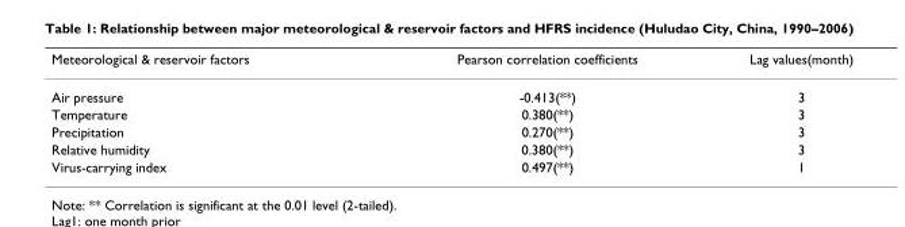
<table><thead><tr><td>Meteorological &amp; reservoir factors</td><td>Pearson correlation coefficients</td><td>Lag values(month)</td></tr></thead><tbody><tr><td>Air pressure</td><td>-0.413(**)</td><td>3</td></tr><tr><td>Temperature</td><td>0.380(**)</td><td>3</td></tr><tr><td>Precipitation</td><td>0.270(**)</td><td>3</td></tr><tr><td>Relative humidity</td><td>0.380(**)</td><td>3</td></tr><tr><td>Virus-carrying index</td><td>0.497(**)</td><td>1</td></tr></tbody></table>